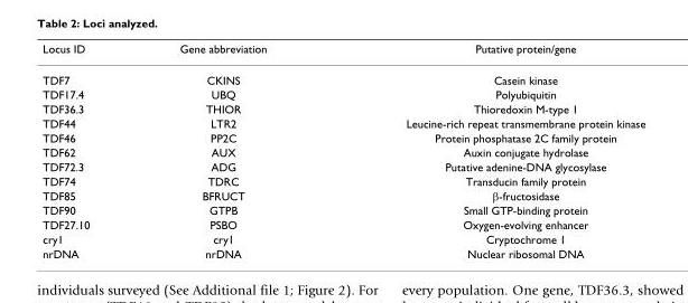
<table><thead><tr><td>Locus ID</td><td>Gene abbreviation</td><td>Putative protein/gene</td></tr></thead><tbody><tr><td>TDF7</td><td>CKINS</td><td>Casein kinase</td></tr><tr><td>TDF17.4</td><td>UBQ</td><td>Polyubiquitin</td></tr><tr><td>TDF36.3</td><td>THIOR</td><td>Thioredoxin M-type 1</td></tr><tr><td>TDF44</td><td>LTR2</td><td>Leucine-rich repeat transmembrane protein kinase</td></tr><tr><td>TDF46</td><td>PP2C</td><td>Protein phosphatase 2C family protein</td></tr><tr><td>TDF62</td><td>AUX</td><td>Auxin conjugate hydrolase</td></tr><tr><td>TDF72.3</td><td>ADG</td><td>Putative adenine-DNA glycosylase</td></tr><tr><td>TDF74</td><td>TDRC</td><td>Transducin family protein</td></tr><tr><td>TDF85</td><td>BFRUCT</td><td>β-fructosidase</td></tr><tr><td>TDF90</td><td>GTPB</td><td>Small GTP-binding protein</td></tr><tr><td>TDF27.10</td><td>PSBO</td><td>Oxygen-evolving enhancer</td></tr><tr><td>cry1</td><td>cry1</td><td>Cryptochrome 1</td></tr><tr><td>nrDNA</td><td>nrDNA</td><td>Nuclear ribosomal DNA</td></tr></tbody></table>